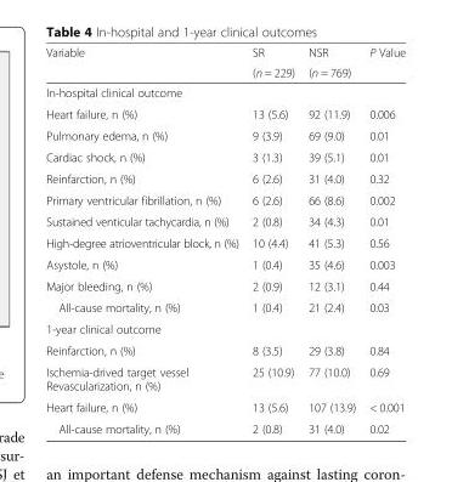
<table><thead><tr><td rowspan="2">Variable</td><td rowspan="2">SR (n = 229)</td><td rowspan="2">NSR (n = 769)</td><td rowspan="2">P Value</td></tr><tr></tr></thead><tbody><tr><td colspan="4">In-hospital clinical outcome</td></tr><tr><td>Heart failure, n (%)</td><td>13 (5.6)</td><td>92 (11.9)</td><td>0.006</td></tr><tr><td>Pulmonary edema, n (%)</td><td>9 (3.9)</td><td>69 (9.0)</td><td>0.01</td></tr><tr><td>Cardiac shock, n (%)</td><td>3 (1.3)</td><td>39 (5.1)</td><td>0.01</td></tr><tr><td>Reinfarction, n (%)</td><td>6 (2.6)</td><td>31 (4.0)</td><td>0.32</td></tr><tr><td>Primary ventricular fibrillation, n (%)</td><td>6 (2.6)</td><td>66 (8.6)</td><td>0.002</td></tr><tr><td>Sustained venticular tachycardia, n (%)</td><td>2 (0.8)</td><td>34 (4.3)</td><td>0.01</td></tr><tr><td>High-degree atrioventricular block, n (%)</td><td>10 (4.4)</td><td>41 (5.3)</td><td>0.56</td></tr><tr><td>Asystole, n (%)</td><td>1 (0.4)</td><td>35 (4.6)</td><td>0.003</td></tr><tr><td>Major bleeding, n (%)</td><td>2 (0.9)</td><td>12 (3.1)</td><td>0.44</td></tr><tr><td>All-cause mortality, n (%)</td><td>1 (0.4)</td><td>21 (2.4)</td><td>0.03</td></tr><tr><td colspan="4">1-year clinical outcome</td></tr><tr><td>Reinfarction, n (%)</td><td>8 (3.5)</td><td>29 (3.8)</td><td>0.84</td></tr><tr><td>Ischemia-drived target vessel Revascularization, n (%)</td><td>25 (10.9)</td><td>77 (10.0)</td><td>0.69</td></tr><tr><td>Heart failure, n (%)</td><td>13 (5.6)</td><td>107 (13.9)</td><td>&lt; 0.001</td></tr><tr><td>All-cause mortality, n (%)</td><td>2 (0.8)</td><td>31 (4.0)</td><td>0.02</td></tr></tbody></table>